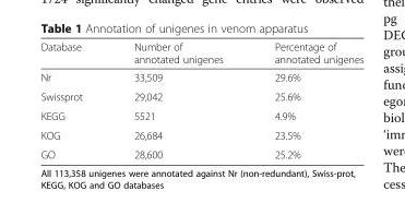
<table><thead><tr><td>Database</td><td>Number of annotated unigenes</td><td>Percentage of annotated unigenes</td></tr></thead><tbody><tr><td>Nr</td><td>33,509</td><td>29.6%</td></tr><tr><td>Swissprot</td><td>29,042</td><td>25.6%</td></tr><tr><td>KEGG</td><td>5521</td><td>4.9%</td></tr><tr><td>KOG</td><td>26,684</td><td>23.5%</td></tr><tr><td>GO</td><td>28,600</td><td>25.2%</td></tr></tbody></table>